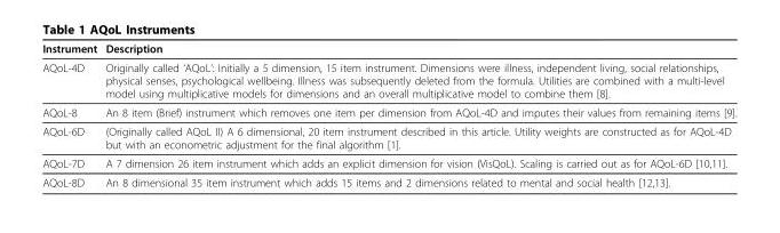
<table><thead><tr><td>Instrument</td><td>Description</td></tr></thead><tbody><tr><td>AQoL-4D</td><td>Originally called ‘AQoL’: Initially a 5 dimension, 15 item instrument. Dimensions were illness, independent living, social relationships, physical senses, psychological wellbeing. Illness was subsequently deleted from the formula. Utilities are combined with a multi-level model using multiplicative models for dimensions and an overall multiplicative model to combine them [8].</td></tr><tr><td>AQoL-8</td><td>An 8 item (Brief) instrument which removes one item per dimension from AQoL-4D and imputes their values from remaining items [9].</td></tr><tr><td>AQoL-6D</td><td>(Originally called AQoL II) A 6 dimensional, 20 item instrument described in this article. Utility weights are constructed as for AQoL-4D but with an econometric adjustment for the final algorithm [1].</td></tr><tr><td>AQoL-7D</td><td>A 7 dimension 26 item instrument which adds an explicit dimension for vision (VisQoL). Scaling is carried out as for AQoL-6D [10,11].</td></tr><tr><td>AQoL-8D</td><td>An 8 dimensional 35 item instrument which adds 15 items and 2 dimensions related to mental and social health [12,13].</td></tr></tbody></table>